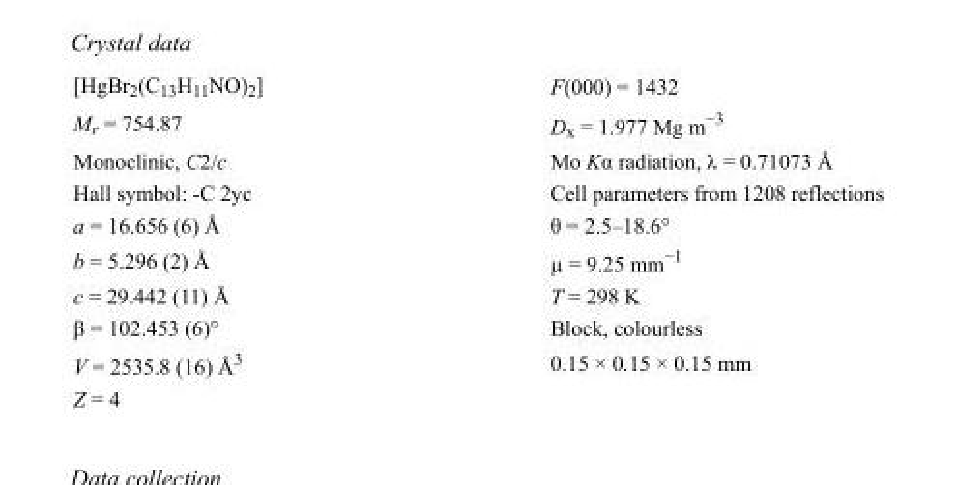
<table><tbody><tr><td>[HgBr<sub>2</sub>(C<sub>13</sub>H<sub>11</sub>NO)<sub>2</sub>]</td><td>F(000) = 1432</td></tr><tr><td>M<sub>r</sub> = 754.87</td><td>D<sub>x</sub> = 1.977 Mg m<sup>−3</sup></td></tr><tr><td>Monoclinic, C2/c</td><td>Mo Kα radiation, λ = 0.71073 Å</td></tr><tr><td>Hall symbol: -C 2yc</td><td>Cell parameters from 1208 reflections</td></tr><tr><td>a = 16.656 (6) Å</td><td>θ = 2.5–18.6°</td></tr><tr><td>b = 5.296 (2) Å</td><td>µ = 9.25 mm<sup>−1</sup></td></tr><tr><td>c = 29.442 (11) Å</td><td>T = 298 K</td></tr><tr><td>β = 102.453 (6)°</td><td>Block, colourless</td></tr><tr><td>V = 2535.8 (16) Å<sup>3</sup></td><td>0.15 × 0.15 × 0.15 mm</td></tr><tr><td>Z = 4</td><td></td></tr></tbody></table>